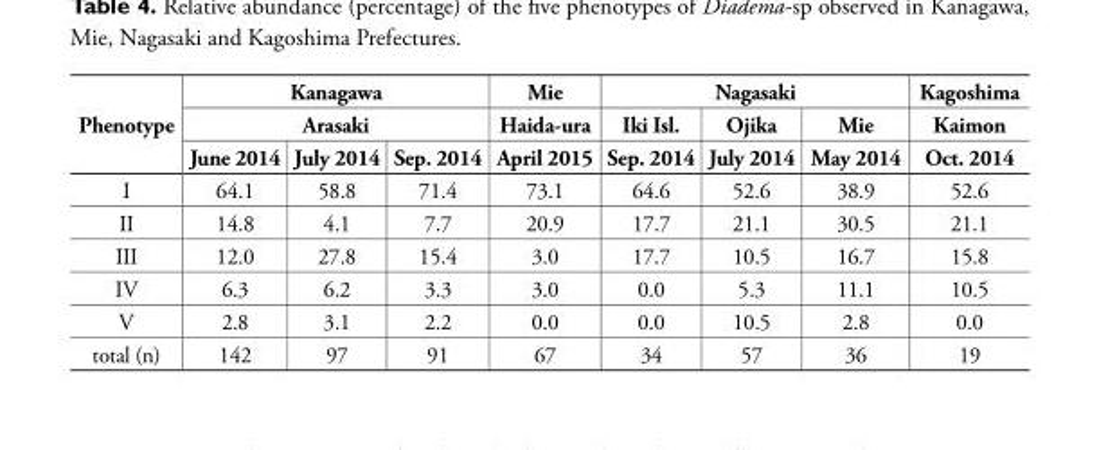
<table><thead><tr><td rowspan="3">Phenotype</td><td rowspan="2" colspan="3">Kanagawa Arasaki</td><td rowspan="3">Mie Haida-ura April 2015</td><td colspan="3">Nagasaki</td><td rowspan="3">Kagoshima Kaimon Oct. 2014</td></tr><tr><td rowspan="2">Iki Isl. Sep. 2014</td><td rowspan="2">Ojika July 2014</td><td rowspan="2">Mie May 2014</td></tr><tr><td>June 2014</td><td>July 2014</td><td>Sep. 2014</td></tr></thead><tbody><tr><td>I</td><td>64.1</td><td>58.8</td><td>71.4</td><td>73.1</td><td>64.6</td><td>52.6</td><td>38.9</td><td>52.6</td></tr><tr><td>II</td><td>14.8</td><td>4.1</td><td>7.7</td><td>20.9</td><td>17.7</td><td>21.1</td><td>30.5</td><td>21.1</td></tr><tr><td>III</td><td>12.0</td><td>27.8</td><td>15.4</td><td>3.0</td><td>17.7</td><td>10.5</td><td>16.7</td><td>15.8</td></tr><tr><td>IV</td><td>6.3</td><td>6.2</td><td>3.3</td><td>3.0</td><td>0.0</td><td>5.3</td><td>11.1</td><td>10.5</td></tr><tr><td>V</td><td>2.8</td><td>3.1</td><td>2.2</td><td>0.0</td><td>0.0</td><td>10.5</td><td>2.8</td><td>0.0</td></tr><tr><td>total (n)</td><td>142</td><td>97</td><td>91</td><td>67</td><td>34</td><td>57</td><td>36</td><td>19</td></tr></tbody></table>